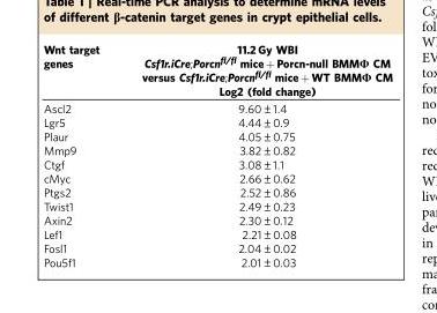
<table><thead><tr><td>Wnt target genes</td><td>11.2 Gy WBI Csf1r.iCre;Porcn<sup>fl/fl</sup> mice + Porcn-null BMMΦ CM versus Csf1r.iCre;Porcn<sup>fl/fl</sup> mice + WT BMMΦ CM Log2 (fold change)</td></tr></thead><tbody><tr><td>Ascl2</td><td>9.60±1.4</td></tr><tr><td>Lgr5</td><td>4.44±0.9</td></tr><tr><td>Plaur</td><td>4.05±0.75</td></tr><tr><td>Mmp9</td><td>3.82±0.82</td></tr><tr><td>Ctgf</td><td>3.08±1.1</td></tr><tr><td>cMyc</td><td>2.66±0.62</td></tr><tr><td>Ptgs2</td><td>2.52±0.86</td></tr><tr><td>Twist1</td><td>2.49±0.23</td></tr><tr><td>Axin2</td><td>2.30±0.12</td></tr><tr><td>Lef1</td><td>2.21±0.08</td></tr><tr><td>Fosl1</td><td>2.04±0.02</td></tr><tr><td>Pou5f1</td><td>2.01±0.03</td></tr></tbody></table>